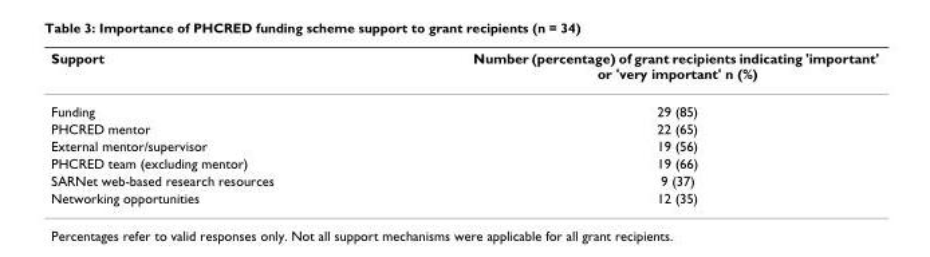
<table><thead><tr><td>Support</td><td>Number (percentage) of grant recipients indicating &#x27;important&#x27; or &#x27;very important&#x27; n (%)</td></tr></thead><tbody><tr><td>Funding</td><td>29 (85)</td></tr><tr><td>PHCRED mentor</td><td>22 (65)</td></tr><tr><td>External mentor/supervisor</td><td>19 (56)</td></tr><tr><td>PHCRED team (excluding mentor)</td><td>19 (66)</td></tr><tr><td>SARNet web-based research resources</td><td>9 (37)</td></tr><tr><td>Networking opportunities</td><td>12 (35)</td></tr></tbody></table>